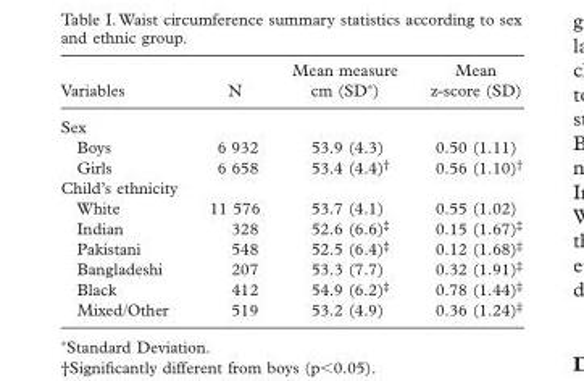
<table><thead><tr><td>Variables</td><td>N</td><td>Mean measure cm (SD ∗ )</td><td>Mean z-score (SD)</td></tr></thead><tbody><tr><td colspan="4">Sex</td></tr><tr><td>Boys</td><td>6 932</td><td>53.9 (4.3)</td><td>0.50 (1.11)</td></tr><tr><td>Girls</td><td>6 658</td><td>53.4 (4.4) †</td><td>0.56 (1.10)†</td></tr><tr><td colspan="4">Child ’ s ethnicity</td></tr><tr><td>White</td><td>11 576</td><td>53.7 (4.1)</td><td>0.55 (1.02)</td></tr><tr><td>Indian</td><td>328</td><td>52.6 (6.6) ‡</td><td>0.15 (1.67)‡</td></tr><tr><td>Pakistani</td><td>548</td><td>52.5 (6.4)‡</td><td>0.12 (1.68)‡</td></tr><tr><td>Bangladeshi</td><td>207</td><td>53.3 (7.7)</td><td>0.32 (1.91)‡</td></tr><tr><td>Black</td><td>412</td><td>54.9 (6.2) ‡</td><td>0.78 (1.44)‡</td></tr><tr><td>Mixed/Other</td><td>519</td><td>53.2 (4.9)</td><td>0.36 (1.24)‡</td></tr></tbody></table>